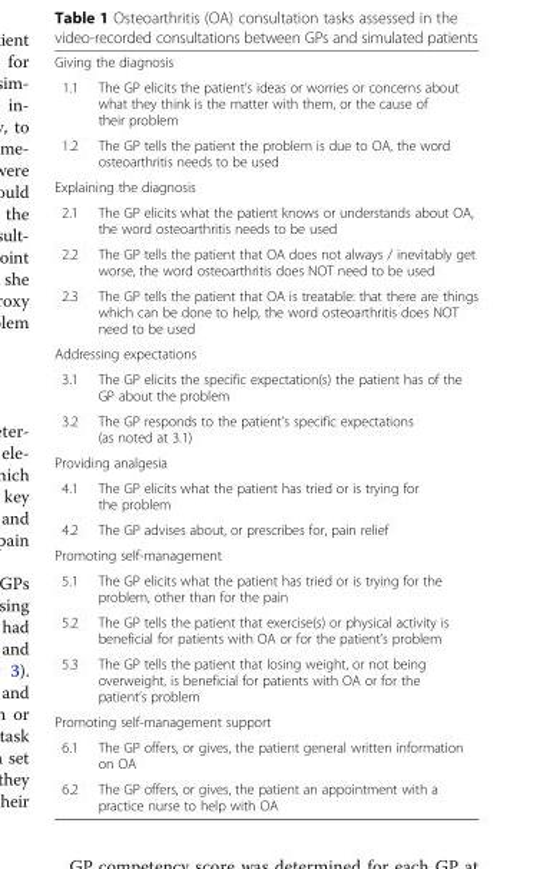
<table><tbody><tr><td colspan="2">Giving the diagnosis</td></tr><tr><td>1.1</td><td>The GP elicits the patient’s ideas or worries or concerns about what they think is the matter with them, or the cause of their problem</td></tr><tr><td>1.2</td><td>The GP tells the patient the problem is due to OA, the word osteoarthritis needs to be used</td></tr><tr><td colspan="2">Explaining the diagnosis</td></tr><tr><td>2.1</td><td>The GP elicits what the patient knows or understands about OA, the word osteoarthritis needs to be used</td></tr><tr><td>2.2</td><td>The GP tells the patient that OA does not always / inevitably get worse, the word osteoarthritis does NOT need to be used</td></tr><tr><td>2.3</td><td>The GP tells the patient that OA is treatable: that there are things which can be done to help, the word osteoarthritis does NOT need to be used</td></tr><tr><td colspan="2">Addressing expectations</td></tr><tr><td>3.1</td><td>The GP elicits the specific expectation(s) the patient has of the GP about the problem</td></tr><tr><td>3.2</td><td>The GP responds to the patient’s specific expectations (as noted at 3.1)</td></tr><tr><td colspan="2">Providing analgesia</td></tr><tr><td>4.1</td><td>The GP elicits what the patient has tried or is trying for the problem</td></tr><tr><td>4.2</td><td>The GP advises about, or prescribes for, pain relief</td></tr><tr><td colspan="2">Promoting self-management</td></tr><tr><td>5.1</td><td>The GP elicits what the patient has tried or is trying for the problem, other than for the pain</td></tr><tr><td>5.2</td><td>The GP tells the patient that exercise(s) or physical activity is beneficial for patients with OA or for the patient’s problem</td></tr><tr><td>5.3</td><td>The GP tells the patient that losing weight, or not being overweight, is beneficial for patients with OA or for the patient’s problem</td></tr><tr><td colspan="2">Promoting self-management support</td></tr><tr><td>6.1</td><td>The GP offers, or gives, the patient general written information on OA</td></tr><tr><td>6.2</td><td>The GP offers, or gives, the patient an appointment with a practice nurse to help with OA</td></tr></tbody></table>